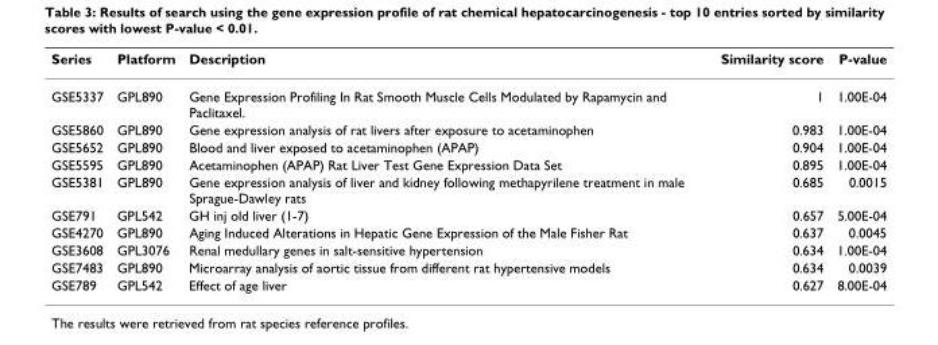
<table><thead><tr><td>Series</td><td>Platform</td><td>Description</td><td>Similarity score</td><td>P-value</td></tr></thead><tbody><tr><td>GSE5337</td><td>GPL890</td><td>Gene Expression Profiling In Rat Smooth Muscle Cells Modulated by Rapamycin and Paclitaxel.</td><td>1</td><td>1.00E-04</td></tr><tr><td>GSE5860</td><td>GPL890</td><td>Gene expression analysis of rat livers after exposure to acetaminophen</td><td>0.983</td><td>1.00E-04</td></tr><tr><td>GSE5652</td><td>GPL890</td><td>Blood and liver exposed to acetaminophen (APAP)</td><td>0.904</td><td>1.00E-04</td></tr><tr><td>GSE5595</td><td>GPL890</td><td>Acetaminophen (APAP) Rat Liver Test Gene Expression Data Set</td><td>0.895</td><td>1.00E-04</td></tr><tr><td>GSE5381</td><td>GPL890</td><td>Gene expression analysis of liver and kidney following methapyrilene treatment in male Sprague-Dawley rats</td><td>0.685</td><td>0.0015</td></tr><tr><td>GSE791</td><td>GPL542</td><td>GH inj old liver (1-7)</td><td>0.657</td><td>5.00E-04</td></tr><tr><td>GSE4270</td><td>GPL890</td><td>Aging Induced Alterations in Hepatic Gene Expression of the Male Fisher Rat</td><td>0.637</td><td>0.0045</td></tr><tr><td>GSE3608</td><td>GPL3076</td><td>Renal medullary genes in salt-sensitive hypertension</td><td>0.634</td><td>1.00E-04</td></tr><tr><td>GSE7483</td><td>GPL890</td><td>Microarray analysis of aortic tissue from different rat hypertensive models</td><td>0.634</td><td>0.0039</td></tr><tr><td>GSE789</td><td>GPL542</td><td>Effect of age liver</td><td>0.627</td><td>8.00E-04</td></tr></tbody></table>